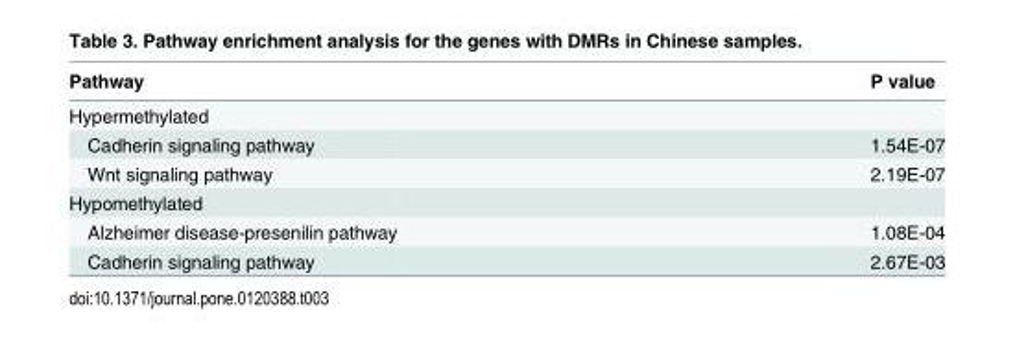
<table><thead><tr><td>Pathway</td><td>P value</td></tr></thead><tbody><tr><td colspan="2">Hypermethylated</td></tr><tr><td>Cadherin signaling pathway</td><td>1.54E-07</td></tr><tr><td>Wnt signaling pathway</td><td>2.19E-07</td></tr><tr><td colspan="2">Hypomethylated</td></tr><tr><td>Alzheimer disease-presenilin pathway</td><td>1.08E-04</td></tr><tr><td>Cadherin signaling pathway</td><td>2.67E-03</td></tr></tbody></table>